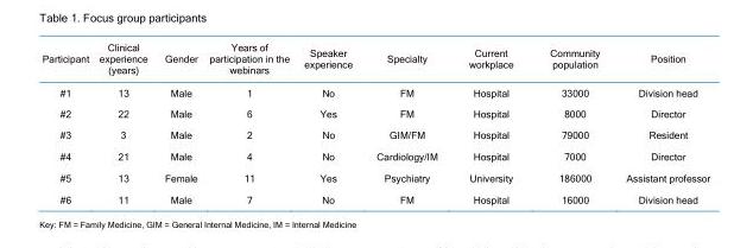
<table><thead><tr><td>Participant</td><td>Clinical experience (years)</td><td>Gender</td><td>Years of participation in the webinars</td><td>Speaker experience</td><td>Specialty</td><td>Current workplace</td><td>Community population</td><td>Position</td></tr></thead><tbody><tr><td>#1</td><td>13</td><td>Male</td><td>1</td><td>No</td><td>FM</td><td>Hospital</td><td>33000</td><td>Division head</td></tr><tr><td>#2</td><td>22</td><td>Male</td><td>6</td><td>Yes</td><td>FM</td><td>Hospital</td><td>8000</td><td>Director</td></tr><tr><td>#3</td><td>3</td><td>Male</td><td>2</td><td>No</td><td>GIM/FM</td><td>Hospital</td><td>79000</td><td>Resident</td></tr><tr><td>#4</td><td>21</td><td>Male</td><td>4</td><td>No</td><td>Cardiology/IM</td><td>Hospital</td><td>7000</td><td>Director</td></tr><tr><td>#5</td><td>13</td><td>Female</td><td>11</td><td>Yes</td><td>Psychiatry</td><td>University</td><td>186000</td><td>Assistant professor</td></tr><tr><td>#6</td><td>11</td><td>Male</td><td>7</td><td>No</td><td>FM</td><td>Hospital</td><td>16000</td><td>Division head</td></tr></tbody></table>